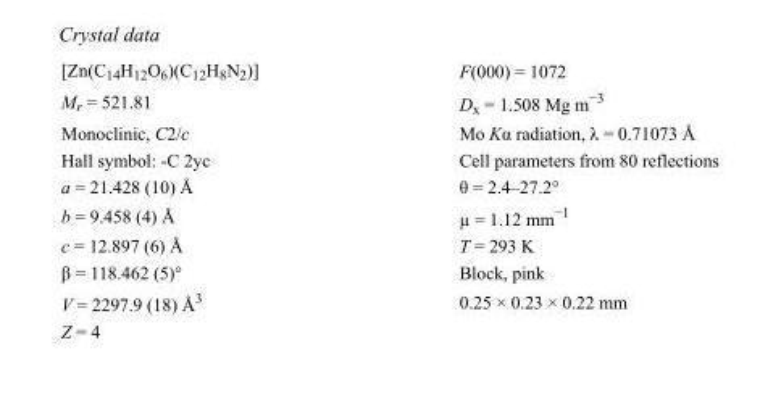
<table><tbody><tr><td>[Zn(C<sub>14</sub>H<sub>12</sub>O<sub>6</sub>)(C<sub>12</sub>H<sub>8</sub>N<sub>2</sub>)]</td><td>F(000) = 1072</td></tr><tr><td>M<sub>r</sub> = 521.81</td><td>D<sub>x</sub> = 1.508 Mg m<sup>−3</sup></td></tr><tr><td>Monoclinic, C2/c</td><td>Mo Kα radiation, λ = 0.71073 Å</td></tr><tr><td>Hall symbol: -C 2yc</td><td>Cell parameters from 80 reflections</td></tr><tr><td>a = 21.428 (10) Å</td><td>θ = 2.4–27.2°</td></tr><tr><td>b = 9.458 (4) Å</td><td>µ = 1.12 mm<sup>−1</sup></td></tr><tr><td>c = 12.897 (6) Å</td><td>T = 293 K</td></tr><tr><td>β = 118.462 (5)°</td><td>Block, pink</td></tr><tr><td>V = 2297.9 (18) Å<sup>3</sup></td><td>0.25 × 0.23 × 0.22 mm</td></tr><tr><td>Z = 4</td><td></td></tr></tbody></table>